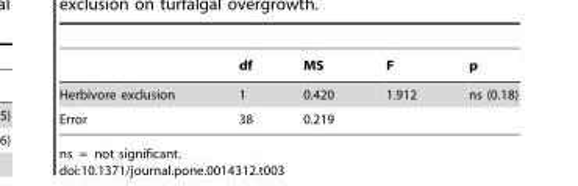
<table><thead><tr><td></td><td>df</td><td>MS</td><td>F</td><td>p</td></tr></thead><tbody><tr><td>Herbivore exclusion</td><td>1</td><td>0.420</td><td>1.912</td><td>ns (0.18)</td></tr><tr><td>Error</td><td>38</td><td>0.219</td><td></td><td></td></tr></tbody></table>